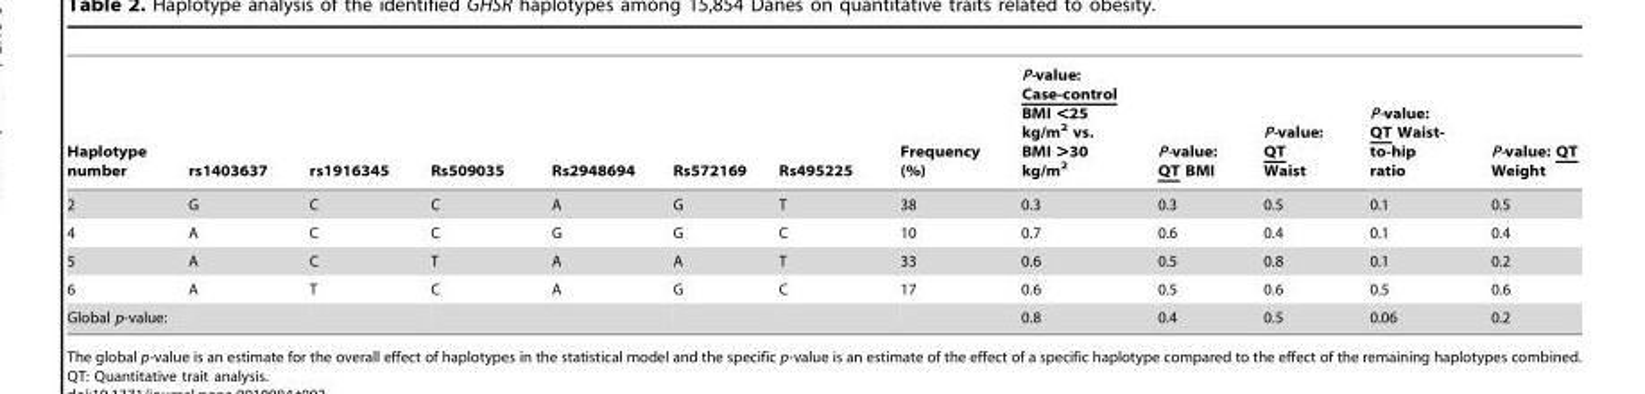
<table><thead><tr><td>Haplotype number</td><td>rs1403637</td><td>rs1916345</td><td>Rs509035</td><td>Rs2948694</td><td>Rs572169</td><td>Rs495225</td><td>Frequency (%)</td><td>P-value: Case-control BMI &lt;25 kg/m<sup>2</sup> vs. BMI &gt;30 kg/m<sup>2</sup></td><td>P-value: QT BMI</td><td>P-value: QT Waist</td><td>P-value: QT Waist- to-hip ratio</td><td>P-value: QT Weight</td></tr></thead><tbody><tr><td>2</td><td>G</td><td>C</td><td>C</td><td>A</td><td>G</td><td>T</td><td>38</td><td>0.3</td><td>0.3</td><td>0.5</td><td>0.1</td><td>0.5</td></tr><tr><td>4</td><td>A</td><td>C</td><td>C</td><td>G</td><td>G</td><td>C</td><td>10</td><td>0.7</td><td>0.6</td><td>0.4</td><td>0.1</td><td>0.4</td></tr><tr><td>5</td><td>A</td><td>C</td><td>T</td><td>A</td><td>A</td><td>T</td><td>33</td><td>0.6</td><td>0.5</td><td>0.8</td><td>0.1</td><td>0.2</td></tr><tr><td>6</td><td>A</td><td>T</td><td>C</td><td>A</td><td>G</td><td>C</td><td>17</td><td>0.6</td><td>0.5</td><td>0.6</td><td>0.5</td><td>0.6</td></tr><tr><td>Global p-value:</td><td></td><td></td><td></td><td></td><td></td><td></td><td></td><td>0.8</td><td>0.4</td><td>0.5</td><td>0.06</td><td>0.2</td></tr></tbody></table>